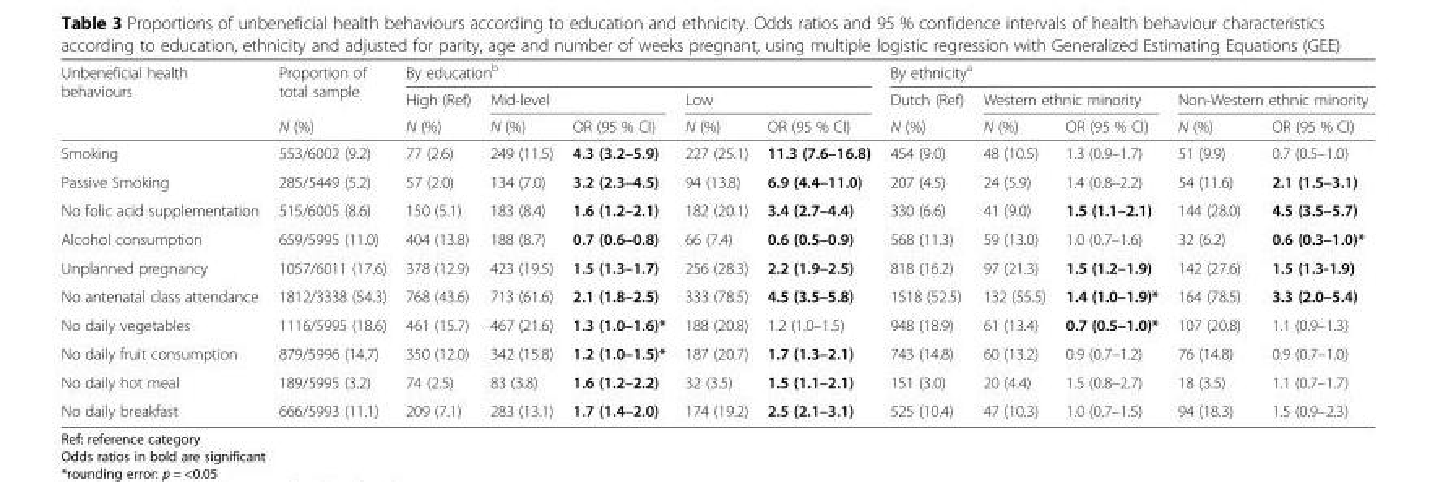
<table><thead><tr><td rowspan="3">Unbeneficial health behaviours</td><td rowspan="3">Proportion of total sample N (%)</td><td colspan="5">By education<sup>b</sup></td><td colspan="5">By ethnicity<sup>a</sup></td></tr><tr><td rowspan="2">High (Ref) N (%)</td><td colspan="2">Mid-level</td><td colspan="2">Low</td><td rowspan="2">Dutch (Ref) N (%)</td><td colspan="2">Western ethnic minority</td><td colspan="2">Non-Western ethnic minority</td></tr><tr><td>N (%)</td><td>OR (95 % CI)</td><td>N (%)</td><td>OR (95 % CI)</td><td>N (%)</td><td>OR (95 % CI)</td><td>N (%)</td><td>OR (95 % CI)</td></tr></thead><tbody><tr><td>Smoking</td><td>553/6002 (9.2)</td><td>77 (2.6)</td><td>249 (11.5)</td><td>4.3 (3.2–5.9)</td><td>227 (25.1)</td><td>11.3 (7.6–16.8)</td><td>454 (9.0)</td><td>48 (10.5)</td><td>1.3 (0.9–1.7)</td><td>51 (9.9)</td><td>0.7 (0.5–1.0)</td></tr><tr><td>Passive Smoking</td><td>285/5449 (5.2)</td><td>57 (2.0)</td><td>134 (7.0)</td><td>3.2 (2.3–4.5)</td><td>94 (13.8)</td><td>6.9 (4.4–11.0)</td><td>207 (4.5)</td><td>24 (5.9)</td><td>1.4 (0.8–2.2)</td><td>54 (11.6)</td><td>2.1 (1.5–3.1)</td></tr><tr><td>No folic acid supplementation</td><td>515/6005 (8.6)</td><td>150 (5.1)</td><td>183 (8.4)</td><td>1.6 (1.2–2.1)</td><td>182 (20.1)</td><td>3.4 (2.7–4.4)</td><td>330 (6.6)</td><td>41 (9.0)</td><td>1.5 (1.1–2.1)</td><td>144 (28.0)</td><td>4.5 (3.5–5.7)</td></tr><tr><td>Alcohol consumption</td><td>659/5995 (11.0)</td><td>404 (13.8)</td><td>188 (8.7)</td><td>0.7 (0.6–0.8)</td><td>66 (7.4)</td><td>0.6 (0.5–0.9)</td><td>568 (11.3)</td><td>59 (13.0)</td><td>1.0 (0.7–1.6)</td><td>32 (6.2)</td><td>0.6 (0.3–1.0)*</td></tr><tr><td>Unplanned pregnancy</td><td>1057/6011 (17.6)</td><td>378 (12.9)</td><td>423 (19.5)</td><td>1.5 (1.3–1.7)</td><td>256 (28.3)</td><td>2.2 (1.9–2.5)</td><td>818 (16.2)</td><td>97 (21.3)</td><td>1.5 (1.2–1.9)</td><td>142 (27.6)</td><td>1.5 (1.3-1.9)</td></tr><tr><td>No antenatal class attendance</td><td>1812/3338 (54.3)</td><td>768 (43.6)</td><td>713 (61.6)</td><td>2.1 (1.8–2.5)</td><td>333 (78.5)</td><td>4.5 (3.5–5.8)</td><td>1518 (52.5)</td><td>132 (55.5)</td><td>1.4 (1.0–1.9)*</td><td>164 (78.5)</td><td>3.3 (2.0–5.4)</td></tr><tr><td>No daily vegetables</td><td>1116/5995 (18.6)</td><td>461 (15.7)</td><td>467 (21.6)</td><td>1.3 (1.0–1.6)*</td><td>188 (20.8)</td><td>1.2 (1.0–1.5)</td><td>948 (18.9)</td><td>61 (13.4)</td><td>0.7 (0.5–1.0)*</td><td>107 (20.8)</td><td>1.1 (0.9–1.3)</td></tr><tr><td>No daily fruit consumption</td><td>879/5996 (14.7)</td><td>350 (12.0)</td><td>342 (15.8)</td><td>1.2 (1.0–1.5)*</td><td>187 (20.7)</td><td>1.7 (1.3–2.1)</td><td>743 (14.8)</td><td>60 (13.2)</td><td>0.9 (0.7–1.2)</td><td>76 (14.8)</td><td>0.9 (0.7–1.0)</td></tr><tr><td>No daily hot meal</td><td>189/5995 (3.2)</td><td>74 (2.5)</td><td>83 (3.8)</td><td>1.6 (1.2–2.2)</td><td>32 (3.5)</td><td>1.5 (1.1–2.1)</td><td>151 (3.0)</td><td>20 (4.4)</td><td>1.5 (0.8–2.7)</td><td>18 (3.5)</td><td>1.1 (0.7–1.7)</td></tr><tr><td>No daily breakfast</td><td>666/5993 (11.1)</td><td>209 (7.1)</td><td>283 (13.1)</td><td>1.7 (1.4–2.0)</td><td>174 (19.2)</td><td>2.5 (2.1–3.1)</td><td>525 (10.4)</td><td>47 (10.3)</td><td>1.0 (0.7–1.5)</td><td>94 (18.3)</td><td>1.5 (0.9–2.3)</td></tr></tbody></table>